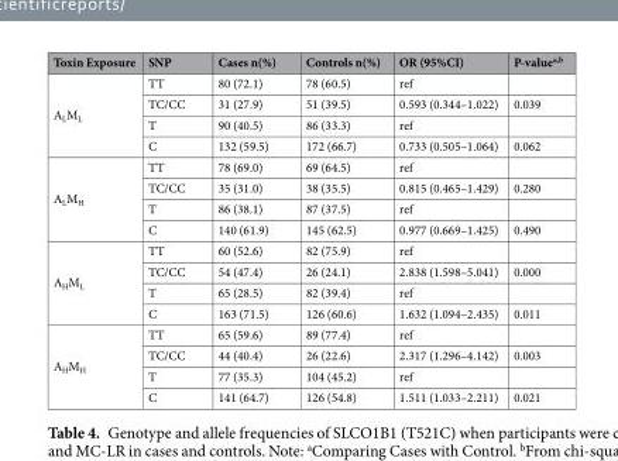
<table><thead><tr><td>Toxin Exposure</td><td>SNP</td><td>Cases n(%)</td><td>Controls n(%)</td><td>OR (95%CI)</td><td>P-value<sup>a,b</sup></td></tr></thead><tbody><tr><td rowspan="4">A<sub>L</sub>M<sub>L</sub></td><td>TT</td><td>80 (72.1)</td><td>78 (60.5)</td><td>ref</td><td></td></tr><tr><td>TC/CC</td><td>31 (27.9)</td><td>51 (39.5)</td><td>0.593 (0.344–1.022)</td><td>0.039</td></tr><tr><td>T</td><td>90 (40.5)</td><td>86 (33.3)</td><td>ref</td><td></td></tr><tr><td>C</td><td>132 (59.5)</td><td>172 (66.7)</td><td>0.733 (0.505–1.064)</td><td>0.062</td></tr><tr><td rowspan="4">A<sub>L</sub>M<sub>H</sub></td><td>TT</td><td>78 (69.0)</td><td>69 (64.5)</td><td>ref</td><td></td></tr><tr><td>TC/CC</td><td>35 (31.0)</td><td>38 (35.5)</td><td>0.815 (0.465–1.429)</td><td>0.280</td></tr><tr><td>T</td><td>86 (38.1)</td><td>87 (37.5)</td><td>ref</td><td></td></tr><tr><td>C</td><td>140 (61.9)</td><td>145 (62.5)</td><td>0.977 (0.669–1.425)</td><td>0.490</td></tr><tr><td rowspan="4">A<sub>H</sub>M<sub>L</sub></td><td>TT</td><td>60 (52.6)</td><td>82 (75.9)</td><td>ref</td><td></td></tr><tr><td>TC/CC</td><td>54 (47.4)</td><td>26 (24.1)</td><td>2.838 (1.598–5.041)</td><td>0.000</td></tr><tr><td>T</td><td>65 (28.5)</td><td>82 (39.4)</td><td>ref</td><td></td></tr><tr><td>C</td><td>163 (71.5)</td><td>126 (60.6)</td><td>1.632 (1.094–2.435)</td><td>0.011</td></tr><tr><td rowspan="4">A<sub>H</sub>M<sub>H</sub></td><td>TT</td><td>65 (59.6)</td><td>89 (77.4)</td><td>ref</td><td></td></tr><tr><td>TC/CC</td><td>44 (40.4)</td><td>26 (22.6)</td><td>2.317 (1.296–4.142)</td><td>0.003</td></tr><tr><td>T</td><td>77 (35.3)</td><td>104 (45.2)</td><td>ref</td><td></td></tr><tr><td>C</td><td>141 (64.7)</td><td>126 (54.8)</td><td>1.511 (1.033–2.211)</td><td>0.021</td></tr></tbody></table>